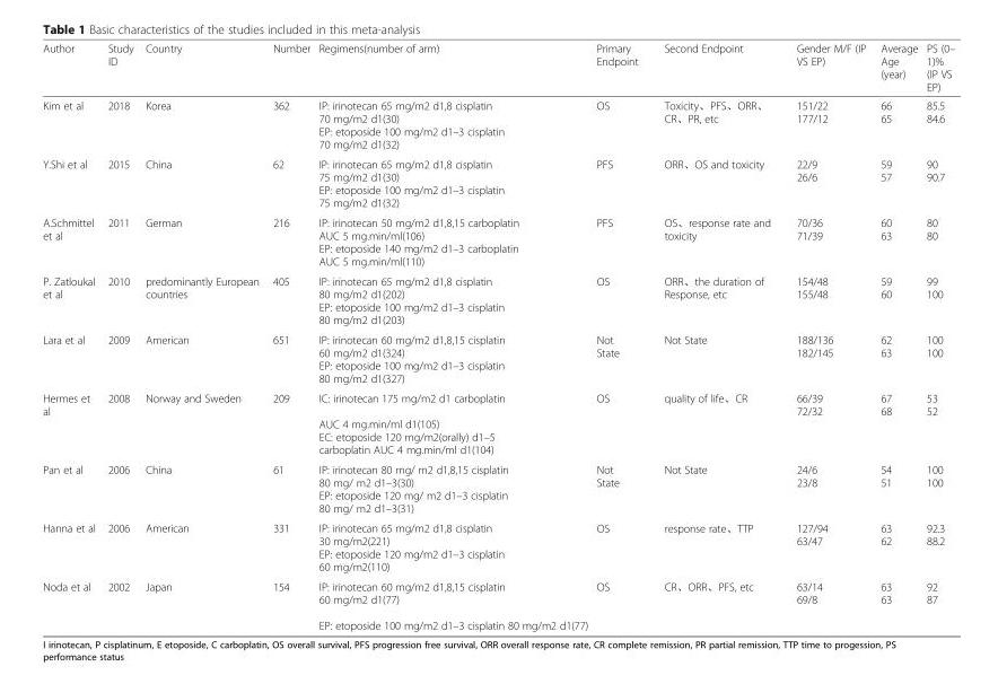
<table><thead><tr><td>Author</td><td>Study ID</td><td>Country</td><td>Number</td><td>Regimens(number of arm)</td><td>Primary Endpoint</td><td>Second Endpoint</td><td>Gender M/F (IP VS EP)</td><td>Average Age (year)</td><td>PS (0– 1)% (IP VS EP)</td></tr></thead><tbody><tr><td>Kim et al</td><td>2018</td><td>Korea</td><td>362</td><td>IP: irinotecan 65 mg/m2 d1,8 cisplatin 70 mg/m2 d1(30) EP: etoposide 100 mg/m2 d1–3 cisplatin 70 mg/m2 d1(32)</td><td>OS</td><td>Toxicity、PFS、ORR、 CR、PR, etc</td><td>151/22 177/12</td><td>66 65</td><td>85.5 84.6</td></tr><tr><td>Y.Shi et al</td><td>2015</td><td>China</td><td>62</td><td>IP: irinotecan 65 mg/m2 d1,8 cisplatin 75 mg/m2 d1(30) EP: etoposide 100 mg/m2 d1–3 cisplatin 75 mg/m2 d1(32)</td><td>PFS</td><td>ORR、OS and toxicity</td><td>22/9 26/6</td><td>59 57</td><td>90 90.7</td></tr><tr><td>A.Schmittel et al</td><td>2011</td><td>German</td><td>216</td><td>IP: irinotecan 50 mg/m2 d1,8,15 carboplatin AUC 5 mg.min/ml(106) EP: etoposide 140 mg/m2 d1–3 carboplatin AUC 5 mg.min/ml(110)</td><td>PFS</td><td>OS、response rate and toxicity</td><td>70/36 71/39</td><td>60 63</td><td>80 80</td></tr><tr><td>P. Zatloukal et al</td><td>2010</td><td>predominantly European countries</td><td>405</td><td>IP: irinotecan 65 mg/m2 d1,8 cisplatin 80 mg/m2 d1(202) EP: etoposide 100 mg/m2 d1–3 cisplatin 80 mg/m2 d1(203)</td><td>OS</td><td>ORR、the duration of Response, etc</td><td>154/48 155/48</td><td>59 60</td><td>99 100</td></tr><tr><td>Lara et al</td><td>2009</td><td>American</td><td>651</td><td>IP: irinotecan 60 mg/m2 d1,8,15 cisplatin 60 mg/m2 d1(324) EP: etoposide 100 mg/m2 d1–3 cisplatin 80 mg/m2 d1(327)</td><td>Not State</td><td>Not State</td><td>188/136 182/145</td><td>62 63</td><td>100 100</td></tr><tr><td>Hermes et al</td><td>2008</td><td>Norway and Sweden</td><td>209</td><td>IC: irinotecan 175 mg/m2 d1 carboplatin AUC 4 mg.min/ml d1(105) EC: etoposide 120 mg/m2(orally) d1–5 carboplatin AUC 4 mg.min/ml d1(104)</td><td>OS</td><td>quality of life、CR</td><td>66/39 72/32</td><td>67 68</td><td>53 52</td></tr><tr><td>Pan et al</td><td>2006</td><td>China</td><td>61</td><td>IP: irinotecan 80 mg/ m2 d1,8,15 cisplatin 80 mg/ m2 d1–3(30) EP: etoposide 120 mg/ m2 d1–3 cisplatin 80 mg/ m2 d1–3(31)</td><td>Not State</td><td>Not State</td><td>24/6 23/8</td><td>54 51</td><td>100 100</td></tr><tr><td>Hanna et al</td><td>2006</td><td>American</td><td>331</td><td>IP: irinotecan 65 mg/m2 d1,8 cisplatin 30 mg/m2(221) EP: etoposide 120 mg/m2 d1–3 cisplatin 60 mg/m2(110)</td><td>OS</td><td>response rate、TTP</td><td>127/94 63/47</td><td>63 62</td><td>92.3 88.2</td></tr><tr><td>Noda et al</td><td>2002</td><td>Japan</td><td>154</td><td>IP: irinotecan 60 mg/m2 d1,8,15 cisplatin 60 mg/m2 d1(77) EP: etoposide 100 mg/m2 d1–3 cisplatin 80 mg/m2 d1(77)</td><td>OS</td><td>CR、ORR、PFS, etc</td><td>63/14 69/8</td><td>63 63</td><td>92 87</td></tr></tbody></table>